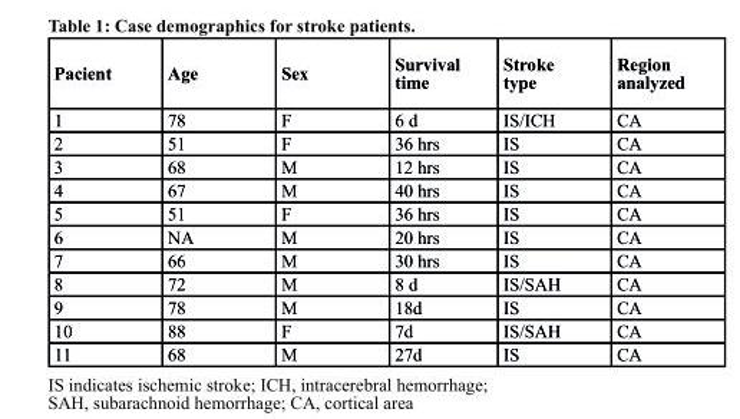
<table><thead><tr><td>Pacient</td><td>Age</td><td>Sex</td><td>Survival time</td><td>Stroke type</td><td>region analyzed</td></tr></thead><tbody><tr><td>1</td><td>78</td><td>F</td><td>6 d</td><td>IS/ICH</td><td>CA</td></tr><tr><td>2</td><td>51</td><td>F</td><td>36 hrs</td><td>IS</td><td>CA</td></tr><tr><td>3</td><td>68</td><td>M</td><td>12 hrs</td><td>IS</td><td>CA</td></tr><tr><td>4</td><td>67</td><td>M</td><td>40 hrs</td><td>IS</td><td>CA</td></tr><tr><td>5</td><td>51</td><td>F</td><td>36 hrs</td><td>IS</td><td>CA</td></tr><tr><td>6</td><td>NA</td><td>M</td><td>20 hrs</td><td>IS</td><td>CA</td></tr><tr><td>7</td><td>66</td><td>M</td><td>30 hrs</td><td>IS</td><td>CA</td></tr><tr><td>8</td><td>72</td><td>M</td><td>8 d</td><td>IS/SAH</td><td>CA</td></tr><tr><td>9</td><td>78</td><td>M</td><td>18d</td><td>IS</td><td>CA</td></tr><tr><td>10</td><td>88</td><td>F</td><td>7d</td><td>IS/SAH</td><td>CA</td></tr><tr><td>11</td><td>68</td><td>M</td><td>27d</td><td>IS</td><td>CA</td></tr></tbody></table>